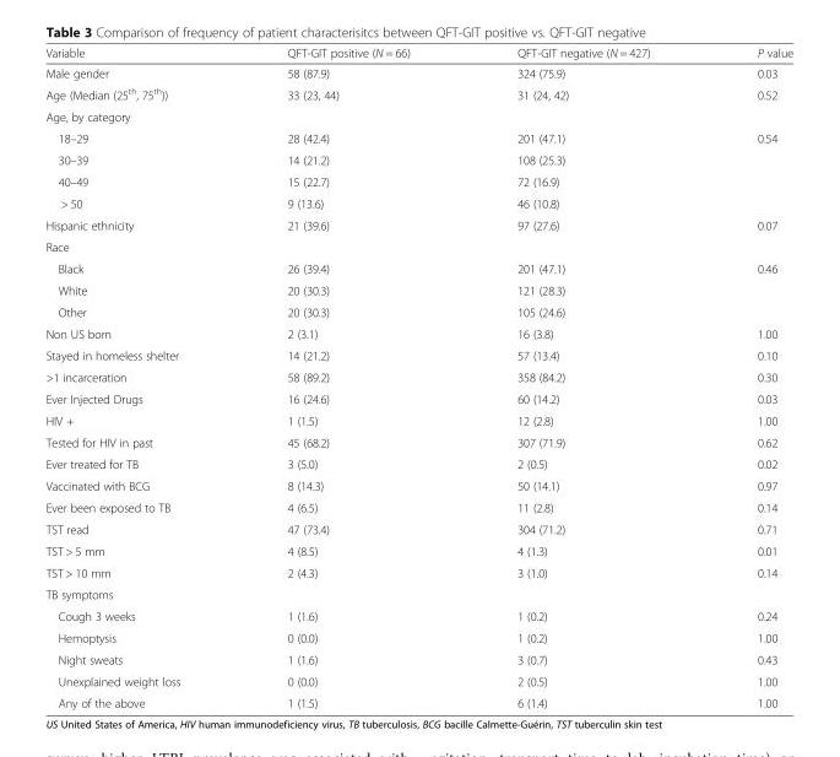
<table><thead><tr><td>Variable</td><td>QFT-GIT positive (N = 66)</td><td>QFT-GIT negative (N = 427)</td><td>P value</td></tr></thead><tbody><tr><td>Male gender</td><td>58 (87.9)</td><td>324 (75.9)</td><td>0.03</td></tr><tr><td>Age (Median (25<sup>th</sup>, 75<sup>th</sup>))</td><td>33 (23, 44)</td><td>31 (24, 42)</td><td>0.52</td></tr><tr><td colspan="4">Age, by category</td></tr><tr><td>18–29</td><td>28 (42.4)</td><td>201 (47.1)</td><td>0.54</td></tr><tr><td>30–39</td><td>14 (21.2)</td><td>108 (25.3)</td><td></td></tr><tr><td>40–49</td><td>15 (22.7)</td><td>72 (16.9)</td><td></td></tr><tr><td>&gt; 50</td><td>9 (13.6)</td><td>46 (10.8)</td><td></td></tr><tr><td>Hispanic ethnicity</td><td>21 (39.6)</td><td>97 (27.6)</td><td>0.07</td></tr><tr><td colspan="4">Race</td></tr><tr><td>Black</td><td>26 (39.4)</td><td>201 (47.1)</td><td>0.46</td></tr><tr><td>White</td><td>20 (30.3)</td><td>121 (28.3)</td><td></td></tr><tr><td>Other</td><td>20 (30.3)</td><td>105 (24.6)</td><td></td></tr><tr><td>Non US born</td><td>2 (3.1)</td><td>16 (3.8)</td><td>1.00</td></tr><tr><td>Stayed in homeless shelter</td><td>14 (21.2)</td><td>57 (13.4)</td><td>0.10</td></tr><tr><td>&gt;1 incarceration</td><td>58 (89.2)</td><td>358 (84.2)</td><td>0.30</td></tr><tr><td>Ever Injected Drugs</td><td>16 (24.6)</td><td>60 (14.2)</td><td>0.03</td></tr><tr><td>HIV +</td><td>1 (1.5)</td><td>12 (2.8)</td><td>1.00</td></tr><tr><td>Tested for HIV in past</td><td>45 (68.2)</td><td>307 (71.9)</td><td>0.62</td></tr><tr><td>Ever treated for TB</td><td>3 (5.0)</td><td>2 (0.5)</td><td>0.02</td></tr><tr><td>Vaccinated with BCG</td><td>8 (14.3)</td><td>50 (14.1)</td><td>0.97</td></tr><tr><td>Ever been exposed to TB</td><td>4 (6.5)</td><td>11 (2.8)</td><td>0.14</td></tr><tr><td>TST read</td><td>47 (73.4)</td><td>304 (71.2)</td><td>0.71</td></tr><tr><td>TST &gt; 5 mm</td><td>4 (8.5)</td><td>4 (1.3)</td><td>0.01</td></tr><tr><td>TST &gt; 10 mm</td><td>2 (4.3)</td><td>3 (1.0)</td><td>0.14</td></tr><tr><td colspan="4">TB symptoms</td></tr><tr><td>Cough 3 weeks</td><td>1 (1.6)</td><td>1 (0.2)</td><td>0.24</td></tr><tr><td>Hemoptysis</td><td>0 (0.0)</td><td>1 (0.2)</td><td>1.00</td></tr><tr><td>Night sweats</td><td>1 (1.6)</td><td>3 (0.7)</td><td>0.43</td></tr><tr><td>Unexplained weight loss</td><td>0 (0.0)</td><td>2 (0.5)</td><td>1.00</td></tr><tr><td>Any of the above</td><td>1 (1.5)</td><td>6 (1.4)</td><td>1.00</td></tr></tbody></table>